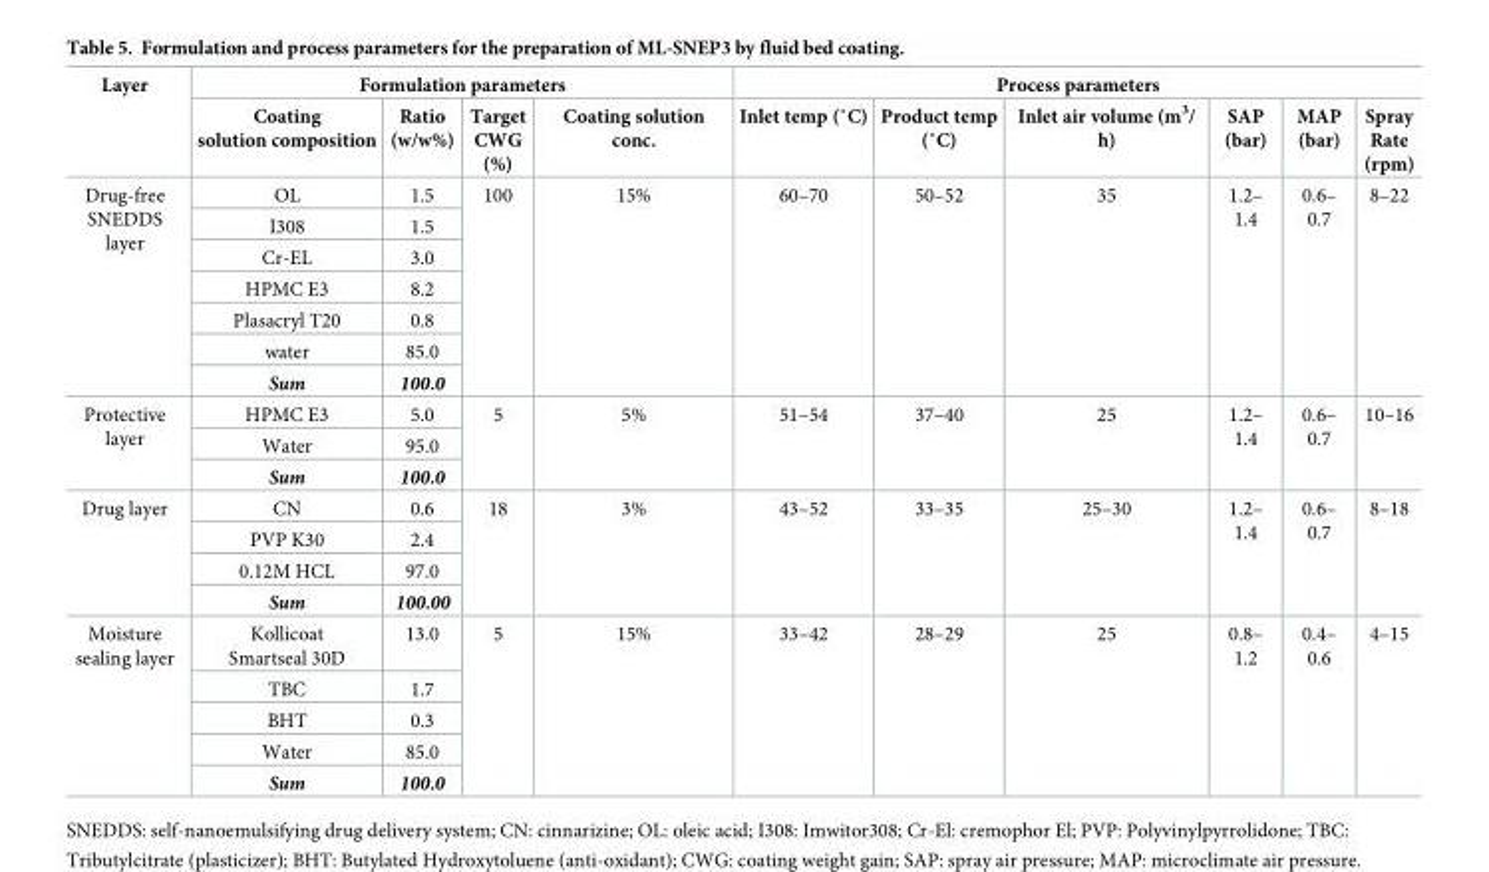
<table><thead><tr><td rowspan="2">Layer</td><td colspan="4">Formulation parameters</td><td colspan="6">Process parameters</td></tr><tr><td>Coating solution composition</td><td>Ratio (w/w%)</td><td>Target CWG (%)</td><td>Coating solution conc.</td><td>Inlet temp (˚C)</td><td>Product temp (˚C)</td><td>Inlet air volume (m<sup>3</sup>/ h)</td><td>SAP (bar)</td><td>MAP (bar)</td><td>Spray Rate (rpm)</td></tr></thead><tbody><tr><td rowspan="7">Drug-free SNEDDS layer</td><td>OL</td><td>1.5</td><td rowspan="7">100</td><td rowspan="7">15%</td><td rowspan="7">60–70</td><td rowspan="7">50–52</td><td rowspan="7">35</td><td rowspan="7">1.2– 1.4</td><td rowspan="7">0.6– 0.7</td><td rowspan="7">8–22</td></tr><tr><td>I308</td><td>1.5</td></tr><tr><td>Cr-EL</td><td>3.0</td></tr><tr><td>HPMC E3</td><td>8.2</td></tr><tr><td>Plasacryl T20</td><td>0.8</td></tr><tr><td>water</td><td>85.0</td></tr><tr><td>Sum</td><td>100.0</td></tr><tr><td rowspan="3">Protective layer</td><td>HPMC E3</td><td>5.0</td><td rowspan="3">5</td><td rowspan="3">5%</td><td rowspan="3">51–54</td><td rowspan="3">37–40</td><td rowspan="3">25</td><td rowspan="3">1.2– 1.4</td><td rowspan="3">0.6– 0.7</td><td rowspan="3">10–16</td></tr><tr><td>Water</td><td>95.0</td></tr><tr><td>Sum</td><td>100.0</td></tr><tr><td rowspan="4">Drug layer</td><td>CN</td><td>0.6</td><td rowspan="4">18</td><td rowspan="4">3%</td><td rowspan="4">43–52</td><td rowspan="4">33–35</td><td rowspan="4">25–30</td><td rowspan="4">1.2– 1.4</td><td rowspan="4">0.6– 0.7</td><td rowspan="4">8–18</td></tr><tr><td>PVP K30</td><td>2.4</td></tr><tr><td>0.12M HCL</td><td>97.0</td></tr><tr><td>Sum</td><td>100.00</td></tr><tr><td rowspan="5">Moisture sealing layer</td><td>Kollicoat Smartseal 30D</td><td>13.0</td><td rowspan="5">5</td><td rowspan="5">15%</td><td rowspan="5">33–42</td><td rowspan="5">28–29</td><td rowspan="5">25</td><td rowspan="5">0.8– 1.2</td><td rowspan="5">0.4– 0.6</td><td rowspan="5">4–15</td></tr><tr><td>TBC</td><td>1.7</td></tr><tr><td>BHT</td><td>0.3</td></tr><tr><td>Water</td><td>85.0</td></tr><tr><td>Sum</td><td>100.0</td></tr></tbody></table>